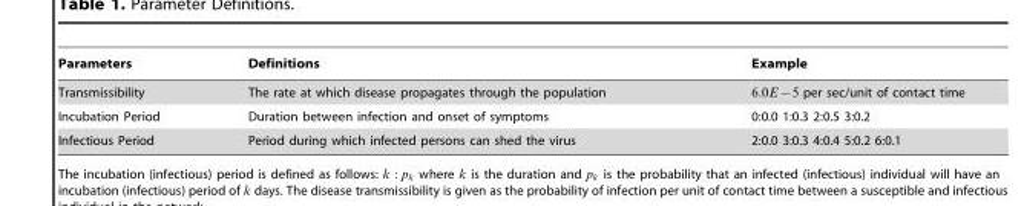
<table><thead><tr><td>Parameters</td><td>Definitions</td><td>Example</td></tr></thead><tbody><tr><td>Transmissibility</td><td>The rate at which disease propagates through the population</td><td>6:0E{5 per sec/unit of contact time</td></tr><tr><td>Incubation Period</td><td>Duration between infection and onset of symptoms</td><td>0:0.0 1:0.3 2:0.5 3:0.2</td></tr><tr><td>Infectious Period</td><td>Period during which infected persons can shed the virus</td><td>2:0.0 3:0.3 4:0.4 5:0.2 6:0.1</td></tr></tbody></table>